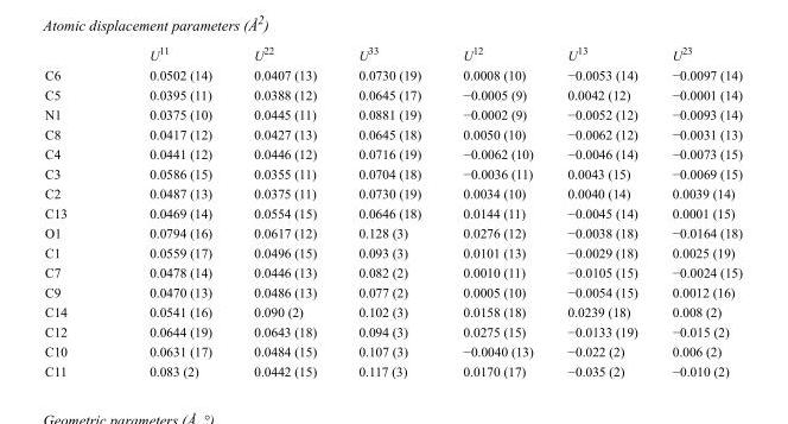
<table><thead><tr><td></td><td>U<sup>11</sup></td><td>U<sup>22</sup></td><td>U<sup>33</sup></td><td>U<sup>12</sup></td><td>U<sup>13</sup></td><td>U<sup>23</sup></td></tr></thead><tbody><tr><td>C6</td><td>0.0502 (14)</td><td>0.0407 (13)</td><td>0.0730 (19)</td><td>0.0008 (10)</td><td>−0.0053 (14)</td><td>−0.0097 (14)</td></tr><tr><td>C5</td><td>0.0395 (11)</td><td>0.0388 (12)</td><td>0.0645 (17)</td><td>−0.0005 (9)</td><td>0.0042 (12)</td><td>−0.0001 (14)</td></tr><tr><td>N1</td><td>0.0375 (10)</td><td>0.0445 (11)</td><td>0.0881 (19)</td><td>−0.0002 (9)</td><td>−0.0052 (12)</td><td>−0.0093 (14)</td></tr><tr><td>C8</td><td>0.0417 (12)</td><td>0.0427 (13)</td><td>0.0645 (18)</td><td>0.0050 (10)</td><td>−0.0062 (12)</td><td>−0.0031 (13)</td></tr><tr><td>C4</td><td>0.0441 (12)</td><td>0.0446 (12)</td><td>0.0716 (19)</td><td>−0.0062 (10)</td><td>−0.0046 (14)</td><td>−0.0073 (15)</td></tr><tr><td>C3</td><td>0.0586 (15)</td><td>0.0355 (11)</td><td>0.0704 (18)</td><td>−0.0036 (11)</td><td>0.0043 (15)</td><td>−0.0069 (15)</td></tr><tr><td>C2</td><td>0.0487 (13)</td><td>0.0375 (11)</td><td>0.0730 (19)</td><td>0.0034 (10)</td><td>0.0040 (14)</td><td>0.0039 (14)</td></tr><tr><td>C13</td><td>0.0469 (14)</td><td>0.0554 (15)</td><td>0.0646 (18)</td><td>0.0144 (11)</td><td>−0.0045 (14)</td><td>0.0001 (15)</td></tr><tr><td>O1</td><td>0.0794 (16)</td><td>0.0617 (12)</td><td>0.128 (3)</td><td>0.0276 (12)</td><td>−0.0038 (18)</td><td>−0.0164 (18)</td></tr><tr><td>C1</td><td>0.0559 (17)</td><td>0.0496 (15)</td><td>0.093 (3)</td><td>0.0101 (13)</td><td>−0.0029 (18)</td><td>0.0025 (19)</td></tr><tr><td>C7</td><td>0.0478 (14)</td><td>0.0446 (13)</td><td>0.082 (2)</td><td>0.0010 (11)</td><td>−0.0105 (15)</td><td>−0.0024 (15)</td></tr><tr><td>C9</td><td>0.0470 (13)</td><td>0.0486 (13)</td><td>0.077 (2)</td><td>0.0005 (10)</td><td>−0.0054 (15)</td><td>0.0012 (16)</td></tr><tr><td>C14</td><td>0.0541 (16)</td><td>0.090 (2)</td><td>0.102 (3)</td><td>0.0158 (18)</td><td>0.0239 (18)</td><td>0.008 (2)</td></tr><tr><td>C12</td><td>0.0644 (19)</td><td>0.0643 (18)</td><td>0.094 (3)</td><td>0.0275 (15)</td><td>−0.0133 (19)</td><td>−0.015 (2)</td></tr><tr><td>C10</td><td>0.0631 (17)</td><td>0.0484 (15)</td><td>0.107 (3)</td><td>−0.0040 (13)</td><td>−0.022 (2)</td><td>0.006 (2)</td></tr><tr><td>C11</td><td>0.083 (2)</td><td>0.0442 (15)</td><td>0.117 (3)</td><td>0.0170 (17)</td><td>−0.035 (2)</td><td>−0.010 (2)</td></tr></tbody></table>